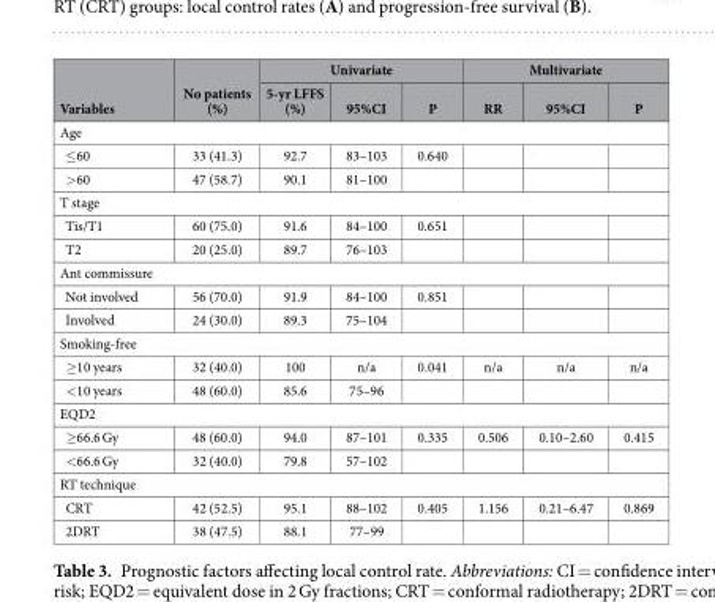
<table><thead><tr><td rowspan="2">Variables</td><td rowspan="2">No patients (%)</td><td colspan="3">Univariate</td><td colspan="3">Multivariate</td></tr><tr><td>5-yr LFFS (%)</td><td>95%CI</td><td>P</td><td>RR</td><td>95%CI</td><td>P</td></tr></thead><tbody><tr><td colspan="8">Age</td></tr><tr><td>≤60</td><td>33 (41.3)</td><td>92.7</td><td>83–103</td><td>0.640</td><td></td><td></td><td></td></tr><tr><td>&gt;60</td><td>47 (58.7)</td><td>90.1</td><td>81–100</td><td></td><td></td><td></td><td></td></tr><tr><td colspan="8">T stage</td></tr><tr><td>Tis/T1</td><td>60 (75.0)</td><td>91.6</td><td>84–100</td><td>0.651</td><td></td><td></td><td></td></tr><tr><td>T2</td><td>20 (25.0)</td><td>89.7</td><td>76–103</td><td></td><td></td><td></td><td></td></tr><tr><td colspan="8">Ant commissure</td></tr><tr><td>Not involved</td><td>56 (70.0)</td><td>91.9</td><td>84–100</td><td>0.851</td><td></td><td></td><td></td></tr><tr><td>Involved</td><td>24 (30.0)</td><td>89.3</td><td>75–104</td><td></td><td></td><td></td><td></td></tr><tr><td colspan="8">Smoking-free</td></tr><tr><td>≥10 years</td><td>32 (40.0)</td><td>100</td><td>n/a</td><td>0.041</td><td>n/a</td><td>n/a</td><td>n/a</td></tr><tr><td>&lt;10 years</td><td>48 (60.0)</td><td>85.6</td><td>75–96</td><td></td><td></td><td></td><td></td></tr><tr><td colspan="8">EQD2</td></tr><tr><td>≥66.6 Gy</td><td>48 (60.0)</td><td>94.0</td><td>87–101</td><td>0.335</td><td>0.506</td><td>0.10–2.60</td><td>0.415</td></tr><tr><td>&lt;66.6 Gy</td><td>32 (40.0)</td><td>79.8</td><td>57–102</td><td></td><td></td><td></td><td></td></tr><tr><td colspan="8">RT technique</td></tr><tr><td>CRT</td><td>42 (52.5)</td><td>95.1</td><td>88–102</td><td>0.405</td><td>1.156</td><td>0.21–6.47</td><td>0.869</td></tr><tr><td>2DRT</td><td>38 (47.5)</td><td>88.1</td><td>77–99</td><td></td><td></td><td></td><td></td></tr></tbody></table>